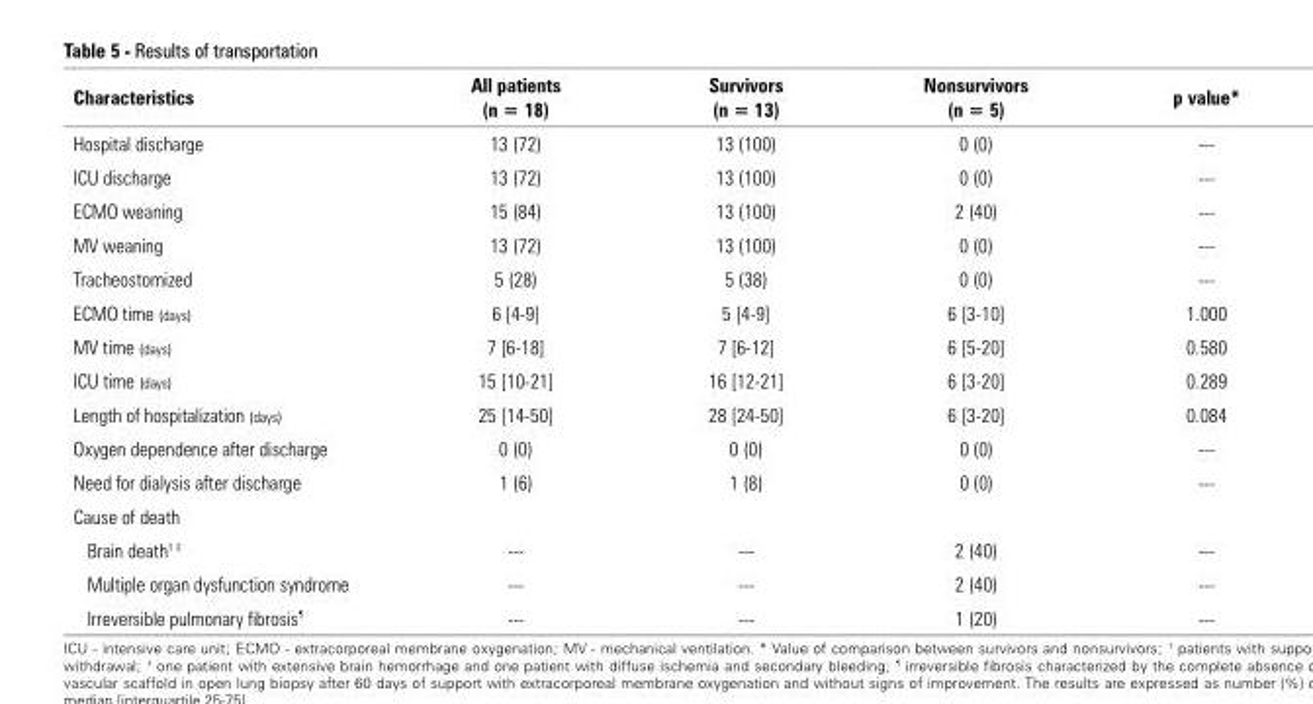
<table><thead><tr><td>Characteristics</td><td>All patients (n = 18)</td><td>Survivors (n = 13)</td><td>Nonsurvivors (n = 5)</td><td>p value*</td></tr></thead><tbody><tr><td>Hospital discharge</td><td>13 (72)</td><td>13 (100)</td><td>0 (0)</td><td>---</td></tr><tr><td>ICU discharge</td><td>13 (72)</td><td>13 (100)</td><td>0 (0)</td><td>---</td></tr><tr><td>ECMO weaning</td><td>15 (84)</td><td>13 (100)</td><td>2 (40)</td><td>---</td></tr><tr><td>MV weaning</td><td>13 (72)</td><td>13 (100)</td><td>0 (0)</td><td>---</td></tr><tr><td>Tracheostomized</td><td>5 (28)</td><td>5 (38)</td><td>0 (0)</td><td>---</td></tr><tr><td>ECMO time (days)</td><td>6 [4-9]</td><td>5 [4-9]</td><td>6 [3-10]</td><td>1.000</td></tr><tr><td>MV time (days)</td><td>7 [6-18]</td><td>7 [6-12]</td><td>6 [5-20]</td><td>0.580</td></tr><tr><td>ICU time (days)</td><td>15 [10-21]</td><td>16 [12-21]</td><td>6 [3-20]</td><td>0.289</td></tr><tr><td>Length of hospitalization (days)</td><td>25 [14-50]</td><td>28 [24-50]</td><td>6 [3-20]</td><td>0.084</td></tr><tr><td>Oxygen dependence after discharge</td><td>0 (0)</td><td>0 (0)</td><td>0 (0)</td><td>---</td></tr><tr><td>Need for dialysis after discharge</td><td>1 (6)</td><td>1 (8)</td><td>0 (0)</td><td>---</td></tr><tr><td colspan="5">Cause of death</td></tr><tr><td>Brain death† ‡</td><td>---</td><td>---</td><td>2 (40)</td><td>---</td></tr><tr><td>Multiple organ dysfunction syndrome</td><td>---</td><td>---</td><td>2 (40)</td><td>---</td></tr><tr><td>Irreversible pulmonary fibrosis¶</td><td>---</td><td>---</td><td>1 (20)</td><td>---</td></tr></tbody></table>